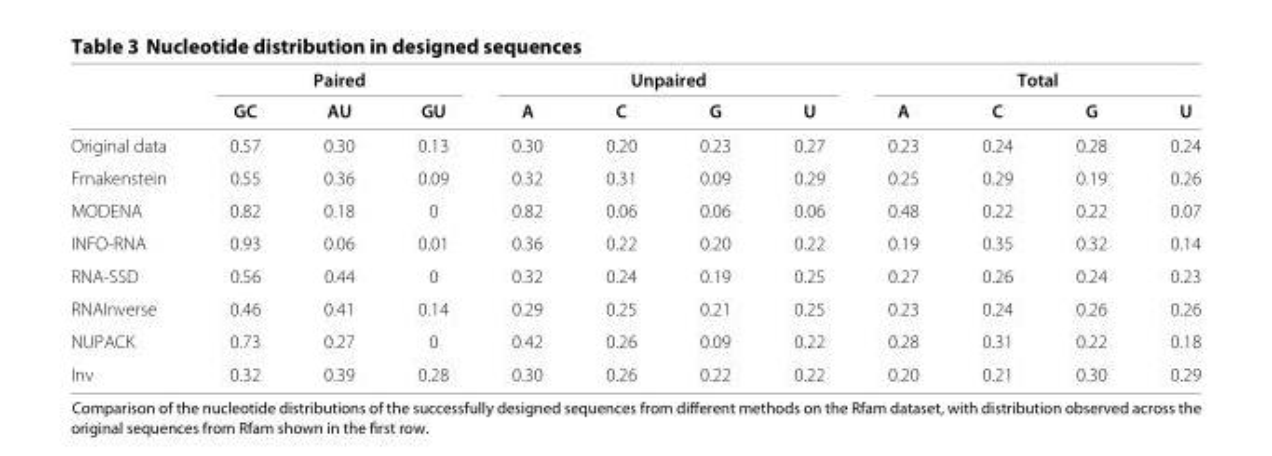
<table><thead><tr><td rowspan="2"></td><td colspan="3">Paired</td><td colspan="4">Unpaired</td><td colspan="4">Total</td></tr><tr><td>GC</td><td>AU</td><td>GU</td><td>A</td><td>C</td><td>G</td><td>U</td><td>A</td><td>C</td><td>G</td><td>U</td></tr></thead><tbody><tr><td>Original data</td><td>0.57</td><td>0.30</td><td>0.13</td><td>0.30</td><td>0.20</td><td>0.23</td><td>0.27</td><td>0.23</td><td>0.24</td><td>0.28</td><td>0.24</td></tr><tr><td>Frnakenstein</td><td>0.55</td><td>0.36</td><td>0.09</td><td>0.32</td><td>0.31</td><td>0.09</td><td>0.29</td><td>0.25</td><td>0.29</td><td>0.19</td><td>0.26</td></tr><tr><td>MODENA</td><td>0.82</td><td>0.18</td><td>0</td><td>0.82</td><td>0.06</td><td>0.06</td><td>0.06</td><td>0.48</td><td>0.22</td><td>0.22</td><td>0.07</td></tr><tr><td>INFO-RNA</td><td>0.93</td><td>0.06</td><td>0.01</td><td>0.36</td><td>0.22</td><td>0.20</td><td>0.22</td><td>0.19</td><td>0.35</td><td>0.32</td><td>0.14</td></tr><tr><td>RNA-SSD</td><td>0.56</td><td>0.44</td><td>0</td><td>0.32</td><td>0.24</td><td>0.19</td><td>0.25</td><td>0.27</td><td>0.26</td><td>0.24</td><td>0.23</td></tr><tr><td>RNAInverse</td><td>0.46</td><td>0.41</td><td>0.14</td><td>0.29</td><td>0.25</td><td>0.21</td><td>0.25</td><td>0.23</td><td>0.24</td><td>0.26</td><td>0.26</td></tr><tr><td>NUPACK</td><td>0.73</td><td>0.27</td><td>0</td><td>0.42</td><td>0.26</td><td>0.09</td><td>0.22</td><td>0.28</td><td>0.31</td><td>0.22</td><td>0.18</td></tr><tr><td>Inv</td><td>0.32</td><td>0.39</td><td>0.28</td><td>0.30</td><td>0.26</td><td>0.22</td><td>0.22</td><td>0.20</td><td>0.21</td><td>0.30</td><td>0.29</td></tr></tbody></table>